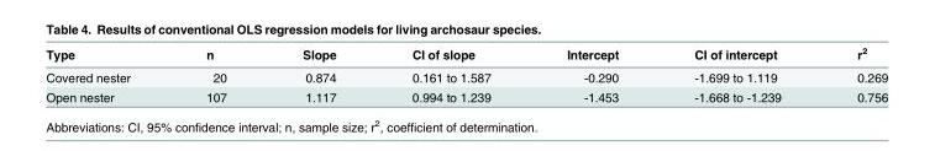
<table><thead><tr><td>Type</td><td>n</td><td>Slope</td><td>CI of slope</td><td>Intercept</td><td>CI of intercept</td><td>r<sup>2</sup></td></tr></thead><tbody><tr><td>Covered nester</td><td>20</td><td>0.874</td><td>0.161 to 1.587</td><td>-0.290</td><td>-1.699 to 1.119</td><td>0.269</td></tr><tr><td>Open nester</td><td>107</td><td>1.117</td><td>0.994 to 1.239</td><td>-1.453</td><td>-1.668 to -1.239</td><td>0.756</td></tr></tbody></table>